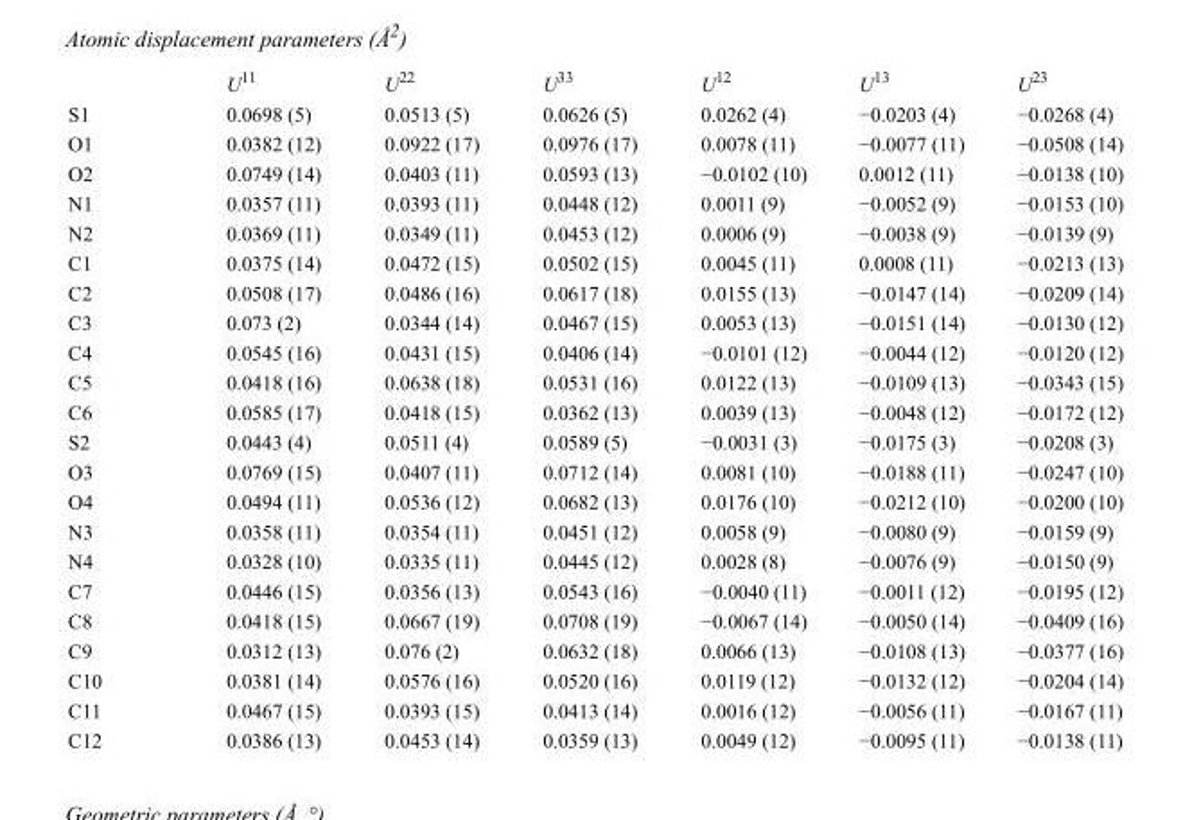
<table><thead><tr><td></td><td>U<sup>11</sup></td><td>U<sup>22</sup></td><td>U<sup>33</sup></td><td>U<sup>12</sup></td><td>U<sup>13</sup></td><td>U<sup>23</sup></td></tr></thead><tbody><tr><td>S1</td><td>0.0698 (5)</td><td>0.0513 (5)</td><td>0.0626 (5)</td><td>0.0262 (4)</td><td>−0.0203 (4)</td><td>−0.0268 (4)</td></tr><tr><td>O1</td><td>0.0382 (12)</td><td>0.0922 (17)</td><td>0.0976 (17)</td><td>0.0078 (11)</td><td>−0.0077 (11)</td><td>−0.0508 (14)</td></tr><tr><td>O2</td><td>0.0749 (14)</td><td>0.0403 (11)</td><td>0.0593 (13)</td><td>−0.0102 (10)</td><td>0.0012 (11)</td><td>−0.0138 (10)</td></tr><tr><td>N1</td><td>0.0357 (11)</td><td>0.0393 (11)</td><td>0.0448 (12)</td><td>0.0011 (9)</td><td>−0.0052 (9)</td><td>−0.0153 (10)</td></tr><tr><td>N2</td><td>0.0369 (11)</td><td>0.0349 (11)</td><td>0.0453 (12)</td><td>0.0006 (9)</td><td>−0.0038 (9)</td><td>−0.0139 (9)</td></tr><tr><td>C1</td><td>0.0375 (14)</td><td>0.0472 (15)</td><td>0.0502 (15)</td><td>0.0045 (11)</td><td>0.0008 (11)</td><td>−0.0213 (13)</td></tr><tr><td>C2</td><td>0.0508 (17)</td><td>0.0486 (16)</td><td>0.0617 (18)</td><td>0.0155 (13)</td><td>−0.0147 (14)</td><td>−0.0209 (14)</td></tr><tr><td>C3</td><td>0.073 (2)</td><td>0.0344 (14)</td><td>0.0467 (15)</td><td>0.0053 (13)</td><td>−0.0151 (14)</td><td>−0.0130 (12)</td></tr><tr><td>C4</td><td>0.0545 (16)</td><td>0.0431 (15)</td><td>0.0406 (14)</td><td>−0.0101 (12)</td><td>−0.0044 (12)</td><td>−0.0120 (12)</td></tr><tr><td>C5</td><td>0.0418 (16)</td><td>0.0638 (18)</td><td>0.0531 (16)</td><td>0.0122 (13)</td><td>−0.0109 (13)</td><td>−0.0343 (15)</td></tr><tr><td>C6</td><td>0.0585 (17)</td><td>0.0418 (15)</td><td>0.0362 (13)</td><td>0.0039 (13)</td><td>−0.0048 (12)</td><td>−0.0172 (12)</td></tr><tr><td>S2</td><td>0.0443 (4)</td><td>0.0511 (4)</td><td>0.0589 (5)</td><td>−0.0031 (3)</td><td>−0.0175 (3)</td><td>−0.0208 (3)</td></tr><tr><td>O3</td><td>0.0769 (15)</td><td>0.0407 (11)</td><td>0.0712 (14)</td><td>0.0081 (10)</td><td>−0.0188 (11)</td><td>−0.0247 (10)</td></tr><tr><td>O4</td><td>0.0494 (11)</td><td>0.0536 (12)</td><td>0.0682 (13)</td><td>0.0176 (10)</td><td>−0.0212 (10)</td><td>−0.0200 (10)</td></tr><tr><td>N3</td><td>0.0358 (11)</td><td>0.0354 (11)</td><td>0.0451 (12)</td><td>0.0058 (9)</td><td>−0.0080 (9)</td><td>−0.0159 (9)</td></tr><tr><td>N4</td><td>0.0328 (10)</td><td>0.0335 (11)</td><td>0.0445 (12)</td><td>0.0028 (8)</td><td>−0.0076 (9)</td><td>−0.0150 (9)</td></tr><tr><td>C7</td><td>0.0446 (15)</td><td>0.0356 (13)</td><td>0.0543 (16)</td><td>−0.0040 (11)</td><td>−0.0011 (12)</td><td>−0.0195 (12)</td></tr><tr><td>C8</td><td>0.0418 (15)</td><td>0.0667 (19)</td><td>0.0708 (19)</td><td>−0.0067 (14)</td><td>−0.0050 (14)</td><td>−0.0409 (16)</td></tr><tr><td>C9</td><td>0.0312 (13)</td><td>0.076 (2)</td><td>0.0632 (18)</td><td>0.0066 (13)</td><td>−0.0108 (13)</td><td>−0.0377 (16)</td></tr><tr><td>C10</td><td>0.0381 (14)</td><td>0.0576 (16)</td><td>0.0520 (16)</td><td>0.0119 (12)</td><td>−0.0132 (12)</td><td>−0.0204 (14)</td></tr><tr><td>C11</td><td>0.0467 (15)</td><td>0.0393 (15)</td><td>0.0413 (14)</td><td>0.0016 (12)</td><td>−0.0056 (11)</td><td>−0.0167 (11)</td></tr><tr><td>C12</td><td>0.0386 (13)</td><td>0.0453 (14)</td><td>0.0359 (13)</td><td>0.0049 (12)</td><td>−0.0095 (11)</td><td>−0.0138 (11)</td></tr></tbody></table>